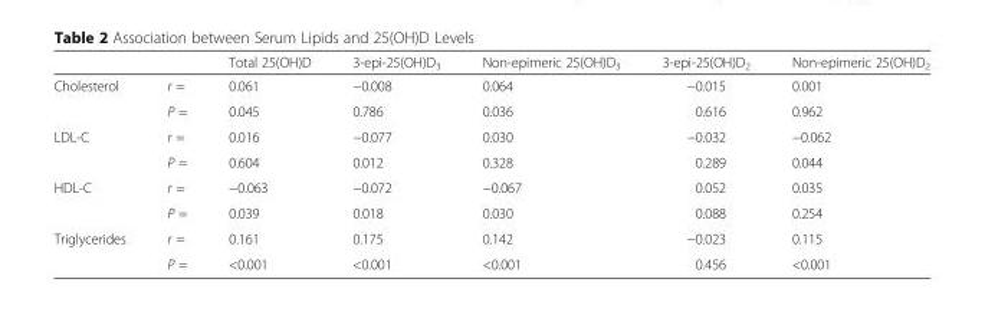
<table><thead><tr><td></td><td></td><td>Total 25(OH)D</td><td>3-epi-25(OH)D<sub>3</sub></td><td>Non-epimeric 25(OH)D<sub>3</sub></td><td>3-epi-25(OH)D<sub>2</sub></td><td>Non-epimeric 25(OH)D<sub>2</sub></td></tr></thead><tbody><tr><td rowspan="2">Cholesterol</td><td>r =</td><td>0.061</td><td>−0.008</td><td>0.064</td><td>−0.015</td><td>0.001</td></tr><tr><td>P =</td><td>0.045</td><td>0.786</td><td>0.036</td><td>0.616</td><td>0.962</td></tr><tr><td rowspan="2">LDL-C</td><td>r =</td><td>0.016</td><td>−0.077</td><td>0.030</td><td>−0.032</td><td>−0.062</td></tr><tr><td>P =</td><td>0.604</td><td>0.012</td><td>0.328</td><td>0.289</td><td>0.044</td></tr><tr><td rowspan="2">HDL-C</td><td>r =</td><td>−0.063</td><td>−0.072</td><td>−0.067</td><td>0.052</td><td>0.035</td></tr><tr><td>P =</td><td>0.039</td><td>0.018</td><td>0.030</td><td>0.088</td><td>0.254</td></tr><tr><td rowspan="2">Triglycerides</td><td>r =</td><td>0.161</td><td>0.175</td><td>0.142</td><td>−0.023</td><td>0.115</td></tr><tr><td>P =</td><td>&lt;0.001</td><td>&lt;0.001</td><td>&lt;0.001</td><td>0.456</td><td>&lt;0.001</td></tr></tbody></table>